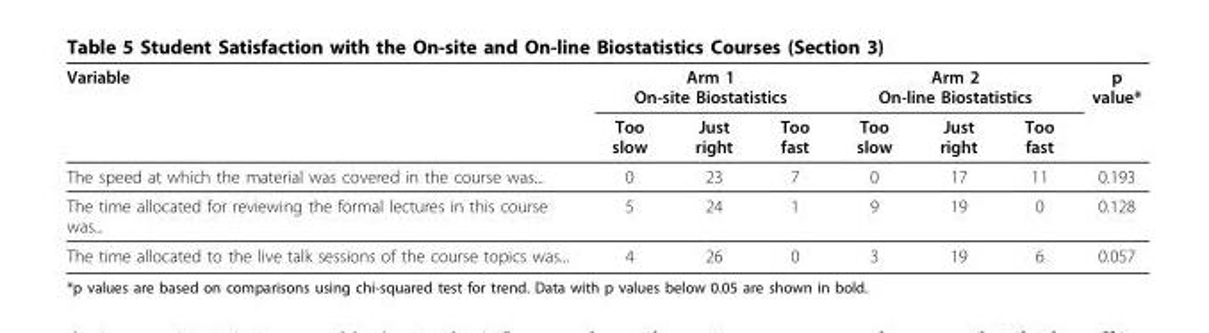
<table><thead><tr><td rowspan="2">Variable</td><td colspan="3">Arm 1 On-site Biostatistics</td><td colspan="3">Arm 2 On-line Biostatistics</td><td rowspan="2">p value*</td></tr><tr><td>Too slow</td><td>Just right</td><td>Too fast</td><td>Too slow</td><td>Just right</td><td>Too fast</td></tr></thead><tbody><tr><td>The speed at which the material was covered in the course was...</td><td>0</td><td>23</td><td>7</td><td>0</td><td>17</td><td>11</td><td>0.193</td></tr><tr><td>The time allocated for reviewing the formal lectures in this course was...</td><td>5</td><td>24</td><td>1</td><td>9</td><td>19</td><td>0</td><td>0.128</td></tr><tr><td>The time allocated to the live talk sessions of the course topics was...</td><td>4</td><td>26</td><td>0</td><td>3</td><td>19</td><td>6</td><td>0.057</td></tr></tbody></table>